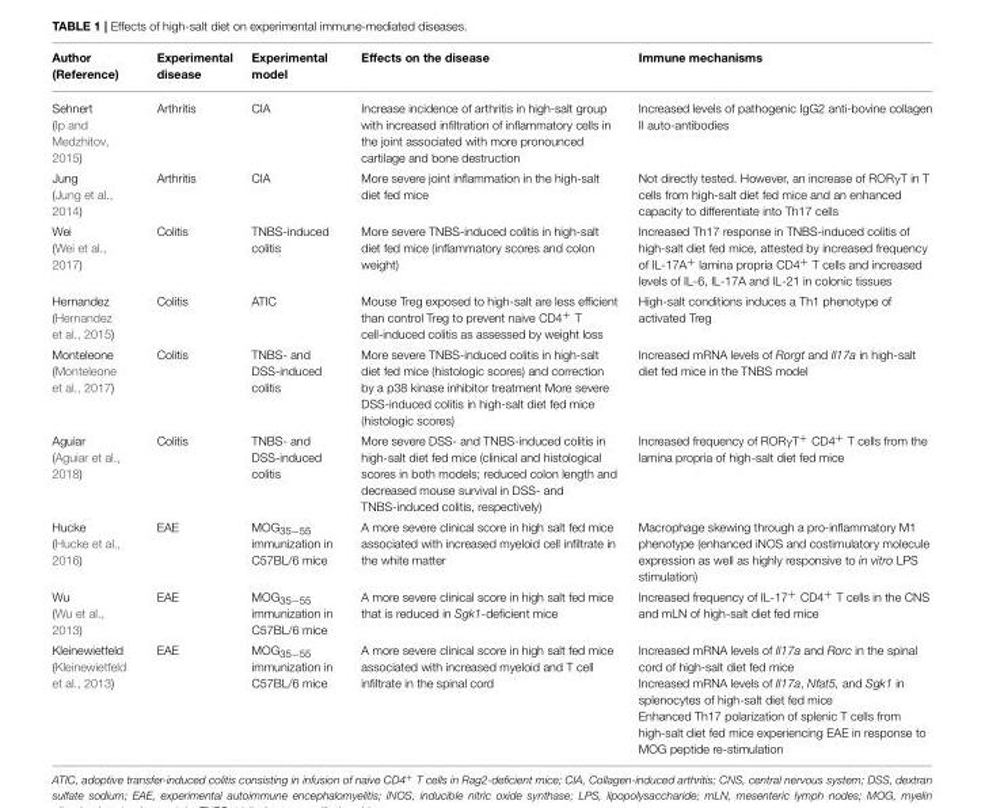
<table><thead><tr><td>Author (Reference)</td><td>Experimental disease</td><td>Experimental model</td><td>Effects on the disease</td><td>Immune mechanisms</td></tr></thead><tbody><tr><td>Sehnert (Ip and Medzhitov, 2015)</td><td>Arthritis</td><td>CIA</td><td>Increase incidence of arthritis in high-salt group with increased infiltration of inflammatory cells in the joint associated with more pronounced cartilage and bone destruction</td><td>Increased levels of pathogenic IgG2 anti-bovine collagen II auto-antibodies</td></tr><tr><td>Jung (Jung et al., 2014)</td><td>Arthritis</td><td>CIA</td><td>More severe joint inflammation in the high-salt diet fed mice</td><td>Not directly tested. However, an increase of RORγT in T cells from high-salt diet fed mice and an enhanced capacity to differentiate into Th17 cells</td></tr><tr><td>Wei (Wei et al., 2017)</td><td>Colitis</td><td>TNBS-induced colitis</td><td>More severe TNBS-induced colitis in high-salt diet fed mice (inflammatory scores and colon weight)</td><td>Increased Th17 response in TNBS-induced colitis of high-salt diet fed mice, attested by increased frequency of IL-17A<sup>+</sup> lamina propria CD4<sup>+</sup> T cells and increased levels of IL-6, IL-17A and IL-21 in colonic tissues</td></tr><tr><td>Hernandez (Hernandez et al., 2015)</td><td>Colitis</td><td>ATIC</td><td>Mouse Treg exposed to high-salt are less efficient than control Treg to prevent naive CD4<sup>+</sup> T cell-induced colitis as assessed by weight loss</td><td>High-salt conditions induces a Th1 phenotype of activated Treg</td></tr><tr><td>Monteleone (Monteleone et al., 2017)</td><td>Colitis</td><td>TNBS- and DSS-induced colitis</td><td>More severe TNBS-induced colitis in high-salt diet fed mice (histologic scores) and correction by a p38 kinase inhibitor treatment More severe DSS-induced colitis in high-salt diet fed mice (histologic scores)</td><td>Increased mRNA levels of Rorgt and Il17a in high-salt diet fed mice in the TNBS model</td></tr><tr><td>Aguiar (Aguiar et al., 2018)</td><td>Colitis</td><td>TNBS- and DSS-induced colitis</td><td>More severe DSS- and TNBS-induced colitis in high-salt diet fed mice (clinical and histological scores in both models; reduced colon length and decreased mouse survival in DSS- and TNBS-induced colitis, respectively)</td><td>Increased frequency of RORγT<sup>+</sup> CD4<sup>+</sup> T cells from the lamina propria of high-salt diet fed mice</td></tr><tr><td>Hucke (Hucke et al., 2016)</td><td>EAE</td><td>MOG<sub>35−55</sub> immunization in C57BL/6 mice</td><td>A more severe clinical score in high salt fed mice associated with increased myeloid cell infiltrate in the white matter</td><td>Macrophage skewing through a pro-inflammatory M1 phenotype (enhanced iNOS and costimulatory molecule expression as well as highly responsive to in vitro LPS stimulation)</td></tr><tr><td>Wu (Wu et al., 2013)</td><td>EAE</td><td>MOG<sub>35−55</sub> immunization in C57BL/6 mice</td><td>A more severe clinical score in high salt fed mice that is reduced in Sgk1-deficient mice</td><td>Increased frequency of IL-17<sup>+</sup> CD4<sup>+</sup> T cells in the CNS and mLN of high-salt diet fed mice</td></tr><tr><td>Kleinewietfeld (Kleinewietfeld et al., 2013)</td><td>EAE</td><td>MOG<sub>35−55</sub> immunization in C57BL/6 mice</td><td>A more severe clinical score in high salt fed mice associated with increased myeloid and T cell infiltrate in the spinal cord</td><td>Increased mRNA levels of Il17a and Rorc in the spinal cord of high-salt diet fed mice Increased mRNA levels of Il17a, Nfat5, and Sgk1 in splenocytes of high-salt diet fed mice Enhanced Th17 polarization of splenic T cells from high-salt diet fed mice experiencing EAE in response to MOG peptide re-stimulation</td></tr></tbody></table>